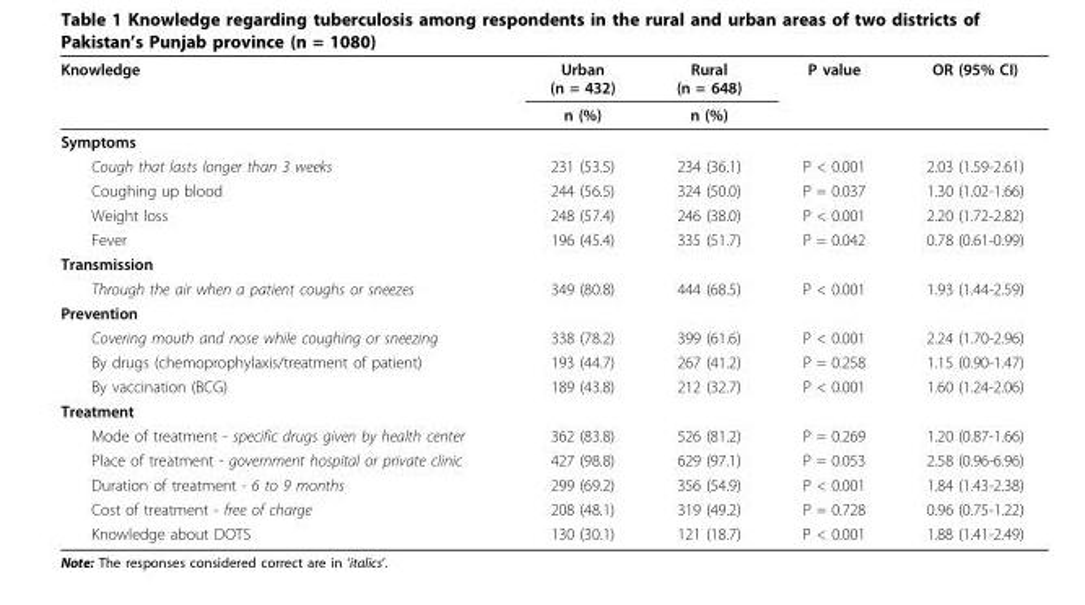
<table><thead><tr><td rowspan="2">Knowledge</td><td rowspan="2">Urban (n = 432) n (%)</td><td rowspan="2">Rural (n = 648) n (%)</td><td rowspan="2">P value</td><td rowspan="2">OR (95% CI)</td></tr><tr></tr></thead><tbody><tr><td colspan="5">Symptoms</td></tr><tr><td>Cough that lasts longer than 3 weeks</td><td>231 (53.5)</td><td>234 (36.1)</td><td>P &lt; 0.001</td><td>2.03 (1.59-2.61)</td></tr><tr><td>Coughing up blood</td><td>244 (56.5)</td><td>324 (50.0)</td><td>P = 0.037</td><td>1.30 (1.02-1.66)</td></tr><tr><td>Weight loss</td><td>248 (57.4)</td><td>246 (38.0)</td><td>P &lt; 0.001</td><td>2.20 (1.72-2.82)</td></tr><tr><td>Fever</td><td>196 (45.4)</td><td>335 (51.7)</td><td>P = 0.042</td><td>0.78 (0.61-0.99)</td></tr><tr><td colspan="5">Transmission</td></tr><tr><td>Through the air when a patient coughs or sneezes</td><td>349 (80.8)</td><td>444 (68.5)</td><td>P &lt; 0.001</td><td>1.93 (1.44-2.59)</td></tr><tr><td colspan="5">Prevention</td></tr><tr><td>Covering mouth and nose while coughing or sneezing</td><td>338 (78.2)</td><td>399 (61.6)</td><td>P &lt; 0.001</td><td>2.24 (1.70-2.96)</td></tr><tr><td>By drugs (chemoprophylaxis/treatment of patient)</td><td>193 (44.7)</td><td>267 (41.2)</td><td>P = 0.258</td><td>1.15 (0.90-1.47)</td></tr><tr><td>By vaccination (BCG)</td><td>189 (43.8)</td><td>212 (32.7)</td><td>P &lt; 0.001</td><td>1.60 (1.24-2.06)</td></tr><tr><td colspan="5">Treatment</td></tr><tr><td>Mode of treatment - specific drugs given by health center</td><td>362 (83.8)</td><td>526 (81.2)</td><td>P = 0.269</td><td>1.20 (0.87-1.66)</td></tr><tr><td>Place of treatment - government hospital or private clinic</td><td>427 (98.8)</td><td>629 (97.1)</td><td>P = 0.053</td><td>2.58 (0.96-6.96)</td></tr><tr><td>Duration of treatment - 6 to 9 months</td><td>299 (69.2)</td><td>356 (54.9)</td><td>P &lt; 0.001</td><td>1.84 (1.43-2.38)</td></tr><tr><td>Cost of treatment - free of charge</td><td>208 (48.1)</td><td>319 (49.2)</td><td>P = 0.728</td><td>0.96 (0.75-1.22)</td></tr><tr><td>Knowledge about DOTS</td><td>130 (30.1)</td><td>121 (18.7)</td><td>P &lt; 0.001</td><td>1.88 (1.41-2.49)</td></tr></tbody></table>